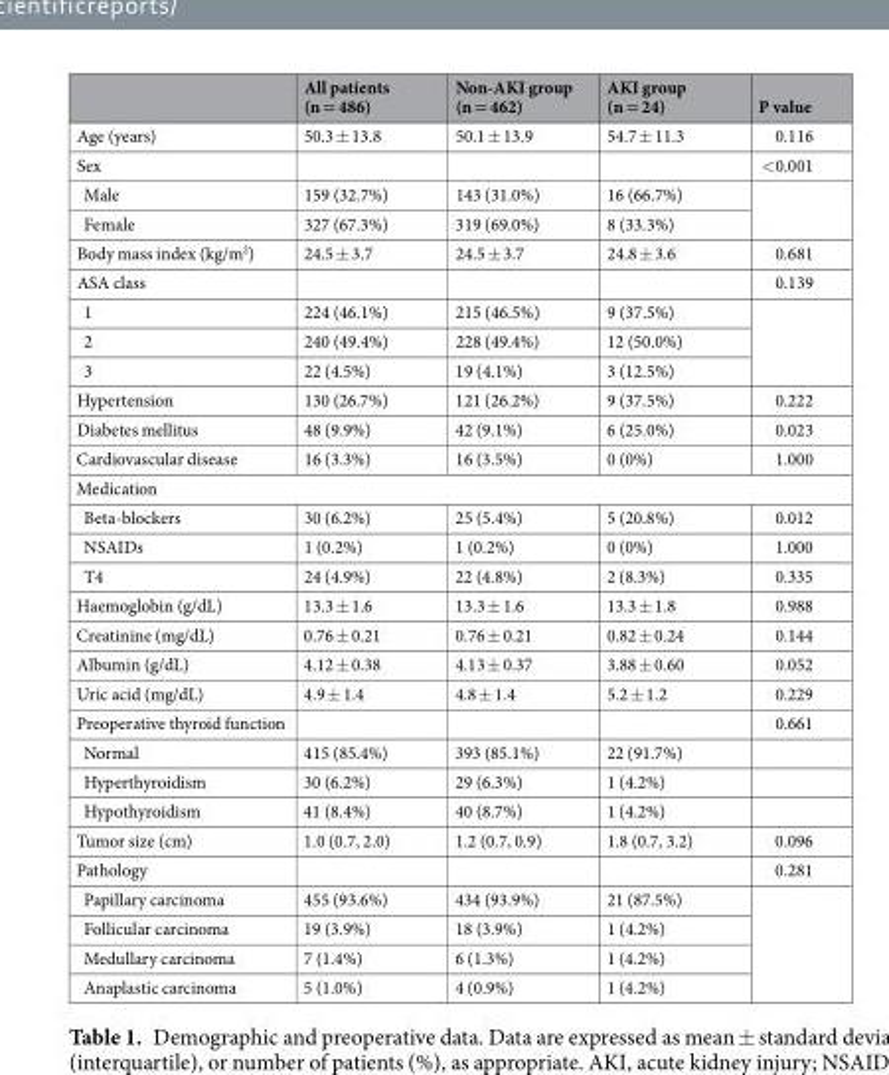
<table><thead><tr><td></td><td>All patients (n = 486)</td><td>Non-AKI group (n = 462)</td><td>AKI group (n = 24)</td><td>P value</td></tr></thead><tbody><tr><td>Age (years)</td><td>50.3 ± 13.8</td><td>50.1 ± 13.9</td><td>54.7 ± 11.3</td><td>0.116</td></tr><tr><td>Sex</td><td></td><td></td><td></td><td>&lt;0.001</td></tr><tr><td>Male</td><td>159 (32.7%)</td><td>143 (31.0%)</td><td>16 (66.7%)</td><td rowspan="2"></td></tr><tr><td>Female</td><td>327 (67.3%)</td><td>319 (69.0%)</td><td>8 (33.3%)</td></tr><tr><td>Body mass index (kg/m<sup>2</sup>)</td><td>24.5 ± 3.7</td><td>24.5 ± 3.7</td><td>24.8 ± 3.6</td><td>0.681</td></tr><tr><td>ASA class</td><td></td><td></td><td></td><td>0.139</td></tr><tr><td>1</td><td>224 (46.1%)</td><td>215 (46.5%)</td><td>9 (37.5%)</td><td rowspan="3"></td></tr><tr><td>2</td><td>240 (49.4%)</td><td>228 (49.4%)</td><td>12 (50.0%)</td></tr><tr><td>3</td><td>22 (4.5%)</td><td>19 (4.1%)</td><td>3 (12.5%)</td></tr><tr><td>Hypertension</td><td>130 (26.7%)</td><td>121 (26.2%)</td><td>9 (37.5%)</td><td>0.222</td></tr><tr><td>Diabetes mellitus</td><td>48 (9.9%)</td><td>42 (9.1%)</td><td>6 (25.0%)</td><td>0.023</td></tr><tr><td>Cardiovascular disease</td><td>16 (3.3%)</td><td>16 (3.5%)</td><td>0 (0%)</td><td>1.000</td></tr><tr><td colspan="5">Medication</td></tr><tr><td>Beta-blockers</td><td>30 (6.2%)</td><td>25 (5.4%)</td><td>5 (20.8%)</td><td>0.012</td></tr><tr><td>NSAIDs</td><td>1 (0.2%)</td><td>1 (0.2%)</td><td>0 (0%)</td><td>1.000</td></tr><tr><td>T4</td><td>24 (4.9%)</td><td>22 (4.8%)</td><td>2 (8.3%)</td><td>0.335</td></tr><tr><td>Haemoglobin (g/dL)</td><td>13.3 ± 1.6</td><td>13.3 ± 1.6</td><td>13.3 ± 1.8</td><td>0.988</td></tr><tr><td>Creatinine (mg/dL)</td><td>0.76 ± 0.21</td><td>0.76 ± 0.21</td><td>0.82 ± 0.24</td><td>0.144</td></tr><tr><td>Albumin (g/dL)</td><td>4.12 ± 0.38</td><td>4.13 ± 0.37</td><td>3.88 ± 0.60</td><td>0.052</td></tr><tr><td>Uric acid (mg/dL)</td><td>4.9 ± 1.4</td><td>4.8 ± 1.4</td><td>5.2 ± 1.2</td><td>0.229</td></tr><tr><td>Preoperative thyroid function</td><td></td><td></td><td></td><td>0.661</td></tr><tr><td>Normal</td><td>415 (85.4%)</td><td>393 (85.1%)</td><td>22 (91.7%)</td><td></td></tr><tr><td>Hyperthyroidism</td><td>30 (6.2%)</td><td>29 (6.3%)</td><td>1 (4.2%)</td><td></td></tr><tr><td>Hypothyroidism</td><td>41 (8.4%)</td><td>40 (8.7%)</td><td>1 (4.2%)</td><td></td></tr><tr><td>Tumor size (cm)</td><td>1.0 (0.7, 2.0)</td><td>1.2 (0.7, 0.9)</td><td>1.8 (0.7, 3.2)</td><td>0.096</td></tr><tr><td>Pathology</td><td></td><td></td><td></td><td>0.281</td></tr><tr><td>Papillary carcinoma</td><td>455 (93.6%)</td><td>434 (93.9%)</td><td>21 (87.5%)</td><td rowspan="4"></td></tr><tr><td>Follicular carcinoma</td><td>19 (3.9%)</td><td>18 (3.9%)</td><td>1 (4.2%)</td></tr><tr><td>Medullary carcinoma</td><td>7 (1.4%)</td><td>6 (1.3%)</td><td>1 (4.2%)</td></tr><tr><td>Anaplastic carcinoma</td><td>5 (1.0%)</td><td>4 (0.9%)</td><td>1 (4.2%)</td></tr></tbody></table>